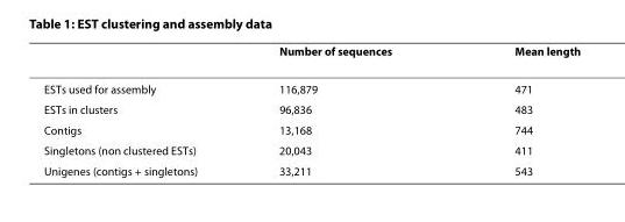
<table><thead><tr><td></td><td>Number of sequences</td><td>Mean length</td></tr></thead><tbody><tr><td>ESTs used for assembly</td><td>116,879</td><td>471</td></tr><tr><td>ESTs in clusters</td><td>96,836</td><td>483</td></tr><tr><td>Contigs</td><td>13,168</td><td>744</td></tr><tr><td>Singletons (non clustered ESTs)</td><td>20,043</td><td>411</td></tr><tr><td>Unigenes (contigs + singletons)</td><td>33,211</td><td>543</td></tr></tbody></table>